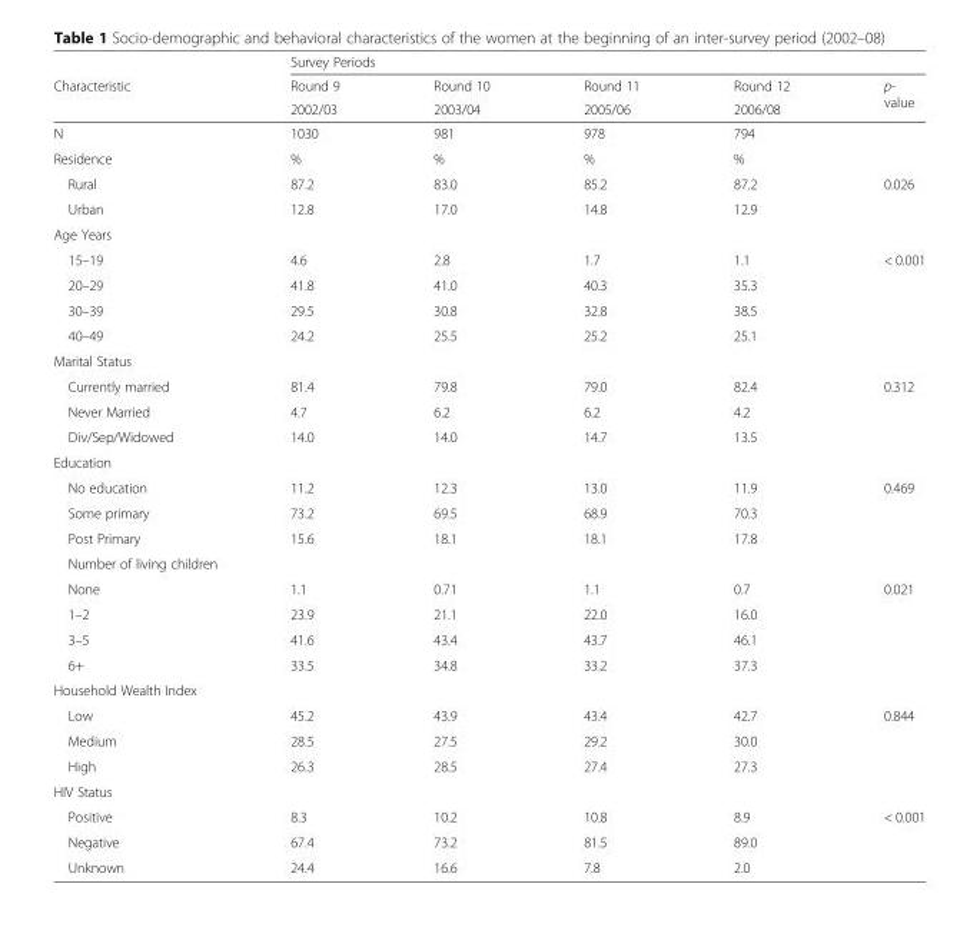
<table><thead><tr><td rowspan="3">Characteristic</td><td colspan="5">Survey Periods</td></tr><tr><td rowspan="2">Round 9 2002/03</td><td rowspan="2">Round 10 2003/04</td><td rowspan="2">Round 11 2005/06</td><td rowspan="2">Round 12 2006/08</td><td rowspan="2">p- value</td></tr><tr></tr></thead><tbody><tr><td>N</td><td>1030</td><td>981</td><td>978</td><td>794</td><td></td></tr><tr><td>Residence</td><td>%</td><td>%</td><td>%</td><td>%</td><td></td></tr><tr><td>Rural</td><td>87.2</td><td>83.0</td><td>85.2</td><td>87.2</td><td>0.026</td></tr><tr><td>Urban</td><td>12.8</td><td>17.0</td><td>14.8</td><td>12.9</td><td></td></tr><tr><td colspan="6">Age Years</td></tr><tr><td>15–19</td><td>4.6</td><td>2.8</td><td>1.7</td><td>1.1</td><td>&lt; 0.001</td></tr><tr><td>20–29</td><td>41.8</td><td>41.0</td><td>40.3</td><td>35.3</td><td></td></tr><tr><td>30–39</td><td>29.5</td><td>30.8</td><td>32.8</td><td>38.5</td><td></td></tr><tr><td>40–49</td><td>24.2</td><td>25.5</td><td>25.2</td><td>25.1</td><td></td></tr><tr><td colspan="6">Marital Status</td></tr><tr><td>Currently married</td><td>81.4</td><td>79.8</td><td>79.0</td><td>82.4</td><td>0.312</td></tr><tr><td>Never Married</td><td>4.7</td><td>6.2</td><td>6.2</td><td>4.2</td><td></td></tr><tr><td>Div/Sep/Widowed</td><td>14.0</td><td>14.0</td><td>14.7</td><td>13.5</td><td></td></tr><tr><td colspan="6">Education</td></tr><tr><td>No education</td><td>11.2</td><td>12.3</td><td>13.0</td><td>11.9</td><td>0.469</td></tr><tr><td>Some primary</td><td>73.2</td><td>69.5</td><td>68.9</td><td>70.3</td><td></td></tr><tr><td>Post Primary</td><td>15.6</td><td>18.1</td><td>18.1</td><td>17.8</td><td></td></tr><tr><td colspan="6">Number of living children</td></tr><tr><td>None</td><td>1.1</td><td>0.71</td><td>1.1</td><td>0.7</td><td>0.021</td></tr><tr><td>1–2</td><td>23.9</td><td>21.1</td><td>22.0</td><td>16.0</td><td></td></tr><tr><td>3–5</td><td>41.6</td><td>43.4</td><td>43.7</td><td>46.1</td><td></td></tr><tr><td>6+</td><td>33.5</td><td>34.8</td><td>33.2</td><td>37.3</td><td></td></tr><tr><td colspan="6">Household Wealth Index</td></tr><tr><td>Low</td><td>45.2</td><td>43.9</td><td>43.4</td><td>42.7</td><td>0.844</td></tr><tr><td>Medium</td><td>28.5</td><td>27.5</td><td>29.2</td><td>30.0</td><td></td></tr><tr><td>High</td><td>26.3</td><td>28.5</td><td>27.4</td><td>27.3</td><td></td></tr><tr><td colspan="6">HIV Status</td></tr><tr><td>Positive</td><td>8.3</td><td>10.2</td><td>10.8</td><td>8.9</td><td>&lt; 0.001</td></tr><tr><td>Negative</td><td>67.4</td><td>73.2</td><td>81.5</td><td>89.0</td><td></td></tr><tr><td>Unknown</td><td>24.4</td><td>16.6</td><td>7.8</td><td>2.0</td><td></td></tr></tbody></table>